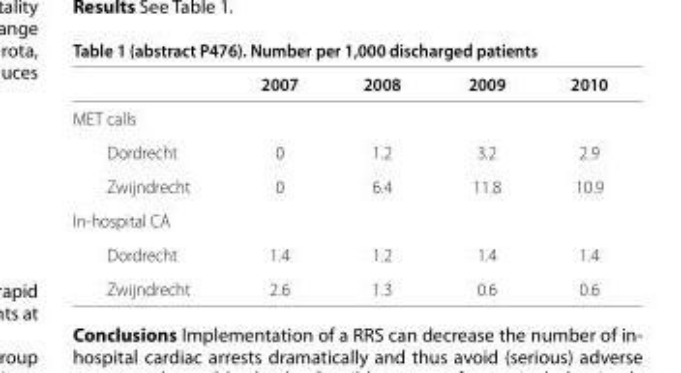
<table><thead><tr><td></td><td>2007</td><td>2008</td><td>2009</td><td>2010</td></tr></thead><tbody><tr><td colspan="5">MET calls</td></tr><tr><td>Dordrecht</td><td>0</td><td>1.2</td><td>3.2</td><td>2.9</td></tr><tr><td>Zwijndrecht</td><td>0</td><td>6.4</td><td>11.8</td><td>10.9</td></tr><tr><td colspan="5">In-hospital CA</td></tr><tr><td>Dordrecht</td><td>1.4</td><td>1.2</td><td>1.4</td><td>1.4</td></tr><tr><td>Zwijndrecht</td><td>2.6</td><td>1.3</td><td>0.6</td><td>0.6</td></tr></tbody></table>